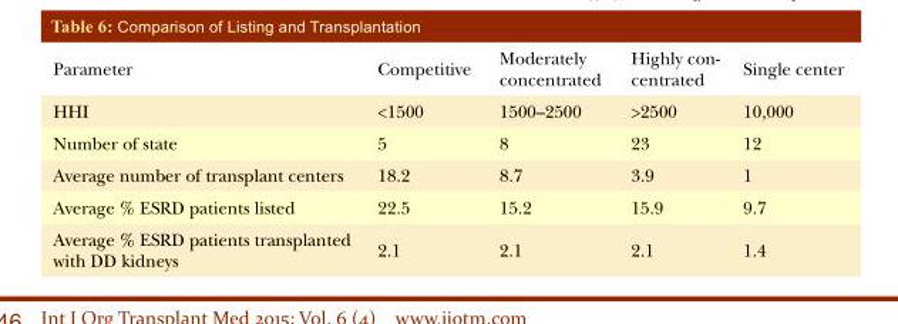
<table><thead><tr><td>Parameter</td><td>Competitive</td><td>Moderately concentrated</td><td>Highly con- centrated</td><td>Single center</td></tr></thead><tbody><tr><td>HHI</td><td>&lt;1500</td><td>1500–2500</td><td>&gt;2500</td><td>10,000</td></tr><tr><td>Number of state</td><td>5</td><td>8</td><td>23</td><td>12</td></tr><tr><td>Average number of transplant centers</td><td>18.2</td><td>8.7</td><td>3.9</td><td>1</td></tr><tr><td>Average % ESRD patients listed</td><td>22.5</td><td>15.2</td><td>15.9</td><td>9.7</td></tr><tr><td>Average % ESRD patients transplanted with DD kidneys</td><td>2.1</td><td>2.1</td><td>2.1</td><td>1.4</td></tr></tbody></table>